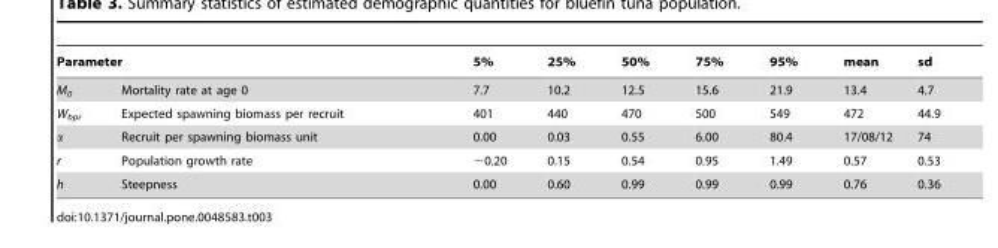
<table><thead><tr><td colspan="2">Parameter</td><td rowspan="2">5% 7.7</td><td rowspan="2">25% 10.2</td><td rowspan="2">50% 12.5</td><td rowspan="2">75% 15.6</td><td rowspan="2">95% 21.9</td><td rowspan="2">mean 13.4</td><td rowspan="2">sd 4.7</td></tr><tr><td>M<sub>0</sub></td><td>Mortality rate at age 0</td></tr></thead><tbody><tr><td>W<sub>bpr</sub></td><td>Expected spawning biomass per recruit</td><td>401</td><td>440</td><td>470</td><td>500</td><td>549</td><td>472</td><td>44.9</td></tr><tr><td>α</td><td>Recruit per spawning biomass unit</td><td>0.00</td><td>0.03</td><td>0.55</td><td>6.00</td><td>80.4</td><td>17/08/12</td><td>74</td></tr><tr><td>r</td><td>Population growth rate</td><td>−0.20</td><td>0.15</td><td>0.54</td><td>0.95</td><td>1.49</td><td>0.57</td><td>0.53</td></tr><tr><td>h</td><td>Steepness</td><td>0.00</td><td>0.60</td><td>0.99</td><td>0.99</td><td>0.99</td><td>0.76</td><td>0.36</td></tr></tbody></table>